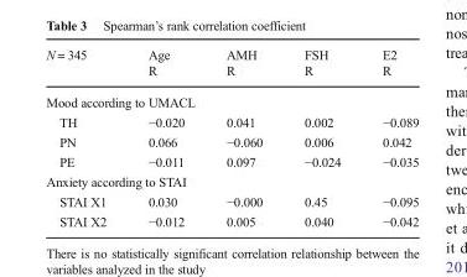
<table><thead><tr><td rowspan="2">N = 345</td><td rowspan="2">Age R</td><td rowspan="2">AMH R</td><td rowspan="2">FSH R</td><td rowspan="2">E2 R</td></tr><tr></tr></thead><tbody><tr><td colspan="5">Mood according to UMACL</td></tr><tr><td>TH</td><td>−0.020</td><td>0.041</td><td>0.002</td><td>−0.089</td></tr><tr><td>PN</td><td>0.066</td><td>−0.060</td><td>0.006</td><td>0.042</td></tr><tr><td>PE</td><td>−0.011</td><td>0.097</td><td>−0.024</td><td>−0.035</td></tr><tr><td colspan="5">Anxiety according to STAI</td></tr><tr><td>STAI X1</td><td>0.030</td><td>−0.000</td><td>0.45</td><td>−0.095</td></tr><tr><td>STAI X2</td><td>−0.012</td><td>0.005</td><td>0.040</td><td>−0.042</td></tr></tbody></table>